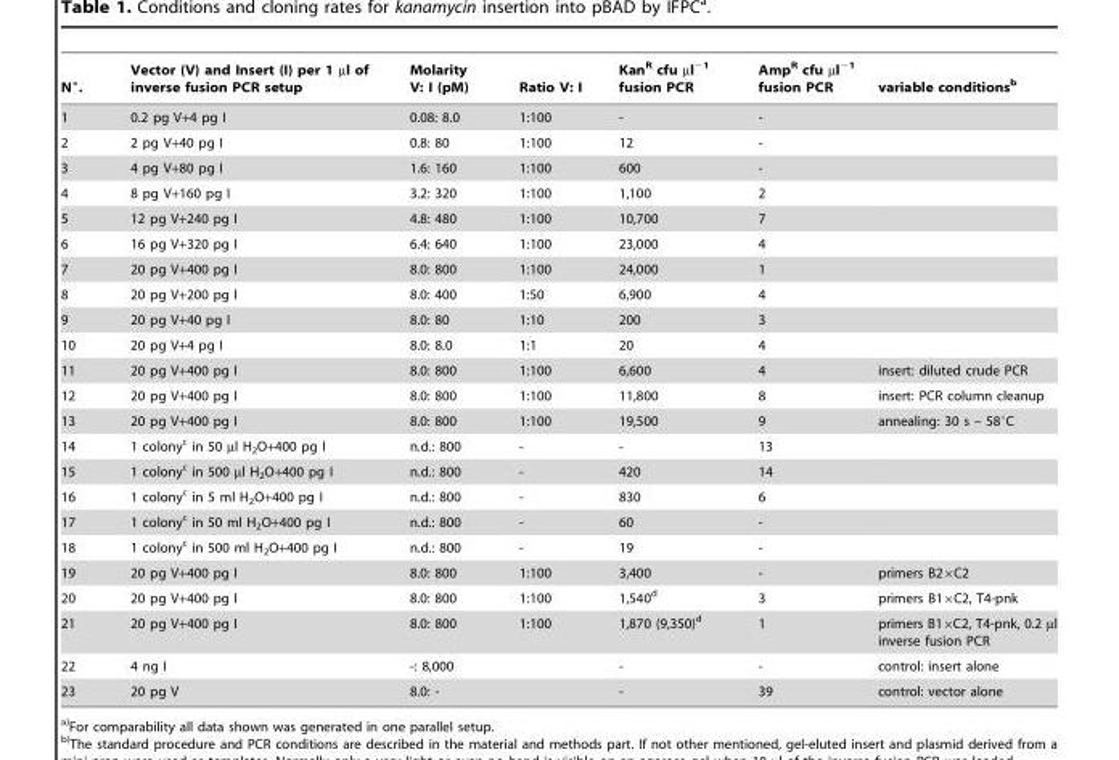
<table><thead><tr><td>N°.</td><td>Vector (V) and Insert (I) per 1 µl of inverse fusion PCR setup</td><td>Molarity V: I (pM)</td><td>Ratio V: I</td><td>Kan<sup>R</sup> cfu µl<sup>−1</sup> fusion PCR</td><td>Amp<sup>R</sup> cfu µl<sup>−1</sup> fusion PCR</td><td>variable conditions<sup>b</sup></td></tr></thead><tbody><tr><td>1</td><td>0.2 pg V+4 pg I</td><td>0.08: 8.0</td><td>1:100</td><td>-</td><td>-</td><td></td></tr><tr><td>2</td><td>2 pg V+40 pg I</td><td>0.8: 80</td><td>1:100</td><td>12</td><td>-</td><td></td></tr><tr><td>3</td><td>4 pg V+80 pg I</td><td>1.6: 160</td><td>1:100</td><td>600</td><td>-</td><td></td></tr><tr><td>4</td><td>8 pg V+160 pg I</td><td>3.2: 320</td><td>1:100</td><td>1,100</td><td>2</td><td></td></tr><tr><td>5</td><td>12 pg V+240 pg I</td><td>4.8: 480</td><td>1:100</td><td>10,700</td><td>7</td><td></td></tr><tr><td>6</td><td>16 pg V+320 pg I</td><td>6.4: 640</td><td>1:100</td><td>23,000</td><td>4</td><td></td></tr><tr><td>7</td><td>20 pg V+400 pg I</td><td>8.0: 800</td><td>1:100</td><td>24,000</td><td>1</td><td></td></tr><tr><td>8</td><td>20 pg V+200 pg I</td><td>8.0: 400</td><td>1:50</td><td>6,900</td><td>4</td><td></td></tr><tr><td>9</td><td>20 pg V+40 pg I</td><td>8.0: 80</td><td>1:10</td><td>200</td><td>3</td><td></td></tr><tr><td>10</td><td>20 pg V+4 pg I</td><td>8.0: 8.0</td><td>1:1</td><td>20</td><td>4</td><td></td></tr><tr><td>11</td><td>20 pg V+400 pg I</td><td>8.0: 800</td><td>1:100</td><td>6,600</td><td>4</td><td>insert: diluted crude PCR</td></tr><tr><td>12</td><td>20 pg V+400 pg I</td><td>8.0: 800</td><td>1:100</td><td>11,800</td><td>8</td><td>insert: PCR column cleanup</td></tr><tr><td>13</td><td>20 pg V+400 pg I</td><td>8.0: 800</td><td>1:100</td><td>19,500</td><td>9</td><td>annealing: 30 s – 58°C</td></tr><tr><td>14</td><td>1 colony<sup>c</sup> in 50 µl H<sub>2</sub>O+400 pg I</td><td>n.d.: 800</td><td>-</td><td>-</td><td>13</td><td></td></tr><tr><td>15</td><td>1 colony<sup>c</sup> in 500 µl H<sub>2</sub>O+400 pg I</td><td>n.d.: 800</td><td>-</td><td>420</td><td>14</td><td></td></tr><tr><td>16</td><td>1 colony<sup>c</sup> in 5 ml H<sub>2</sub>O+400 pg I</td><td>n.d.: 800</td><td>-</td><td>830</td><td>6</td><td></td></tr><tr><td>17</td><td>1 colony<sup>c</sup> in 50 ml H<sub>2</sub>O+400 pg I</td><td>n.d.: 800</td><td>-</td><td>60</td><td>-</td><td></td></tr><tr><td>18</td><td>1 colony<sup>c</sup> in 500 ml H<sub>2</sub>O+400 pg I</td><td>n.d.: 800</td><td>-</td><td>19</td><td>-</td><td></td></tr><tr><td>19</td><td>20 pg V+400 pg I</td><td>8.0: 800</td><td>1:100</td><td>3,400</td><td>-</td><td>primers B2×C2</td></tr><tr><td>20</td><td>20 pg V+400 pg I</td><td>8.0: 800</td><td>1:100</td><td>1,540<sup>d</sup></td><td>3</td><td>primers B1×C2, T4-pnk</td></tr><tr><td>21</td><td>20 pg V+400 pg I</td><td>8.0: 800</td><td>1:100</td><td>1,870 (9,350)<sup>d</sup></td><td>1</td><td>primers B1×C2, T4-pnk, 0.2 µl inverse fusion PCR</td></tr><tr><td>22</td><td>4 ng I</td><td>-: 8,000</td><td></td><td>-</td><td>-</td><td>control: insert alone</td></tr><tr><td>23</td><td>20 pg V</td><td>8.0: -</td><td></td><td>-</td><td>39</td><td>control: vector alone</td></tr></tbody></table>